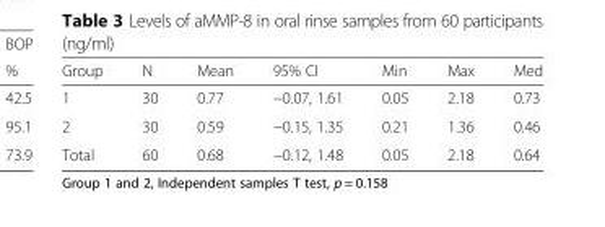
<table><thead><tr><td>Group</td><td>N</td><td>Mean</td><td>95% CI</td><td>Min</td><td>Max</td><td>Med</td></tr></thead><tbody><tr><td>1</td><td>30</td><td>0.77</td><td>−0.07, 1.61</td><td>0.05</td><td>2.18</td><td>0.73</td></tr><tr><td>2</td><td>30</td><td>0.59</td><td>−0.15, 1.35</td><td>0.21</td><td>1.36</td><td>0.46</td></tr><tr><td>Total</td><td>60</td><td>0.68</td><td>−0.12, 1.48</td><td>0.05</td><td>2.18</td><td>0.64</td></tr></tbody></table>